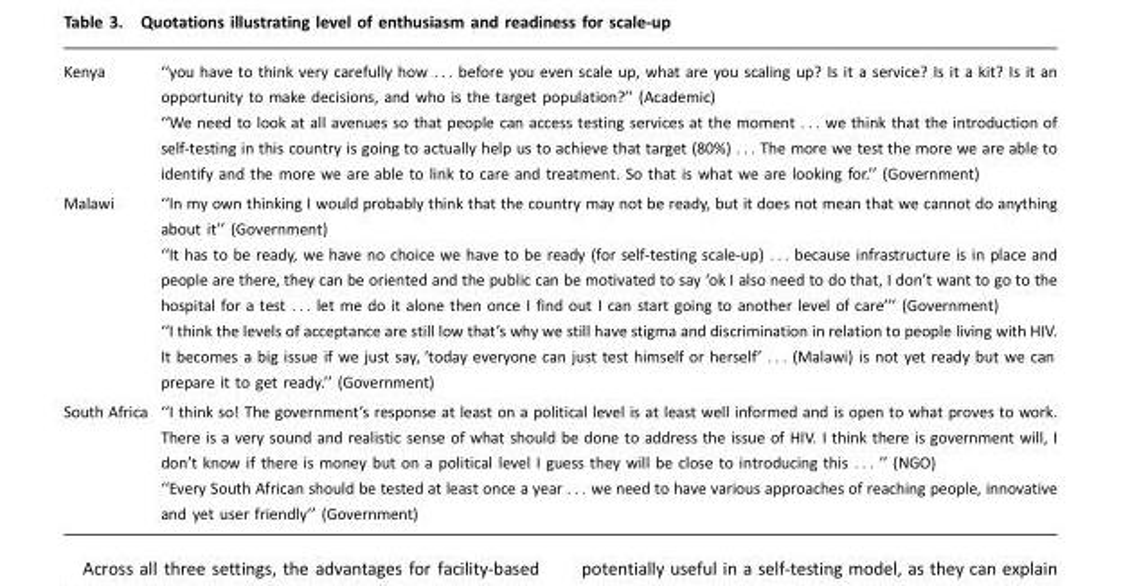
<table><tbody><tr><td>Kenya</td><td>‘‘you have to think very carefully how . . . before you even scale up, what are you scaling up? Is it a service? Is it a kit? Is it an opportunity to make decisions, and who is the target population?’’ (Academic) ‘‘We need to look at all avenues so that people can access testing services at the moment . . . we think that the introduction of self-testing in this country is going to actually help us to achieve that target (80%) . . . The more we test the more we are able to identify and the more we are able to link to care and treatment. So that is what we are looking for.’’ (Government)</td></tr><tr><td>Malawi</td><td>‘‘In my own thinking I would probably think that the country may not be ready, but it does not mean that we cannot do anything about it’’ (Government) ‘‘It has to be ready, we have no choice we have to be ready (for self-testing scale-up) . . . because infrastructure is in place and people are there, they can be oriented and the public can be motivated to say ‘ok I also need to do that, I don’t want to go to the hospital for a test . . . let me do it alone then once I find out I can start going to another level of care’’’ (Government) ‘‘I think the levels of acceptance are still low that’s why we still have stigma and discrimination in relation to people living with HIV. It becomes a big issue if we just say, ‘today everyone can just test himself or herself’ . . . (Malawi) is not yet ready but we can prepare it to get ready.’’ (Government)</td></tr><tr><td>South Africa</td><td>‘‘I think so! The government’s response at least on a political level is at least well informed and is open to what proves to work. There is a very sound and realistic sense of what should be done to address the issue of HIV. I think there is government will, I don’t know if there is money but on a political level I guess they will be close to introducing this . . . ’’ (NGO) ‘‘Every South African should be tested at least once a year . . . we need to have various approaches of reaching people, innovative and yet user friendly’’ (Government)</td></tr></tbody></table>